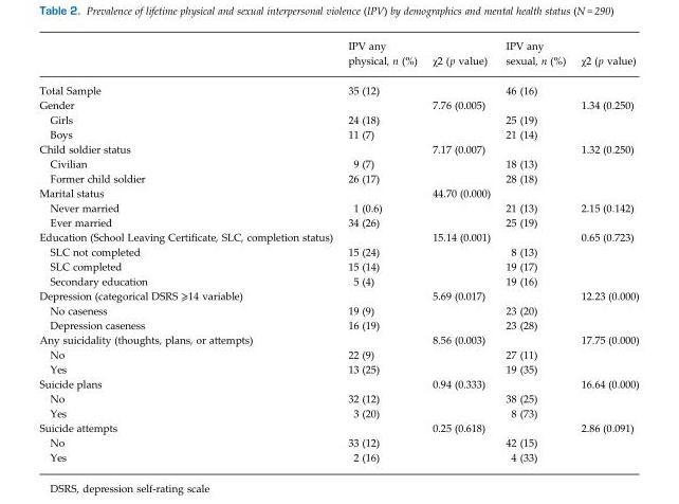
<table><thead><tr><td></td><td>IPV any physical, n (%)</td><td>χ2 (p value)</td><td>IPV any sexual, n (%)</td><td>χ2 (p value)</td></tr></thead><tbody><tr><td>Total Sample</td><td>35 (12)</td><td></td><td>46 (16)</td><td></td></tr><tr><td>Gender</td><td></td><td>7.76 (0.005)</td><td></td><td>1.34 (0.250)</td></tr><tr><td>Girls</td><td>24 (18)</td><td></td><td>25 (19)</td><td></td></tr><tr><td>Boys</td><td>11 (7)</td><td></td><td>21 (14)</td><td></td></tr><tr><td>Child soldier status</td><td></td><td>7.17 (0.007)</td><td></td><td>1.32 (0.250)</td></tr><tr><td>Civilian</td><td>9 (7)</td><td></td><td>18 (13)</td><td></td></tr><tr><td>Former child soldier</td><td>26 (17)</td><td></td><td>28 (18)</td><td></td></tr><tr><td>Marital status</td><td></td><td>44.70 (0.000)</td><td></td><td></td></tr><tr><td>Never married</td><td>1 (0.6)</td><td></td><td>21 (13)</td><td>2.15 (0.142)</td></tr><tr><td>Ever married</td><td>34 (26)</td><td></td><td>25 (19)</td><td></td></tr><tr><td>Education (School Leaving Certificate, SLC, completion status)</td><td></td><td>15.14 (0.001)</td><td></td><td>0.65 (0.723)</td></tr><tr><td>SLC not completed</td><td>15 (24)</td><td></td><td>8 (13)</td><td></td></tr><tr><td>SLC completed</td><td>15 (14)</td><td></td><td>19 (17)</td><td></td></tr><tr><td>Secondary education</td><td>5 (4)</td><td></td><td>19 (16)</td><td></td></tr><tr><td>Depression (categorical DSRS ⩾14 variable)</td><td></td><td>5.69 (0.017)</td><td></td><td>12.23 (0.000)</td></tr><tr><td>No caseness</td><td>19 (9)</td><td></td><td>23 (20)</td><td></td></tr><tr><td>Depression caseness</td><td>16 (19)</td><td></td><td>23 (28)</td><td></td></tr><tr><td>Any suicidality (thoughts, plans, or attempts)</td><td></td><td>8.56 (0.003)</td><td></td><td>17.75 (0.000)</td></tr><tr><td>No</td><td>22 (9)</td><td></td><td>27 (11)</td><td></td></tr><tr><td>Yes</td><td>13 (25)</td><td></td><td>19 (35)</td><td></td></tr><tr><td>Suicide plans</td><td></td><td>0.94 (0.333)</td><td></td><td>16.64 (0.000)</td></tr><tr><td>No</td><td>32 (12)</td><td></td><td>38 (25)</td><td></td></tr><tr><td>Yes</td><td>3 (20)</td><td></td><td>8 (73)</td><td></td></tr><tr><td>Suicide attempts</td><td></td><td>0.25 (0.618)</td><td></td><td>2.86 (0.091)</td></tr><tr><td>No</td><td>33 (12)</td><td></td><td>42 (15)</td><td></td></tr><tr><td>Yes</td><td>2 (16)</td><td></td><td>4 (33)</td><td></td></tr></tbody></table>